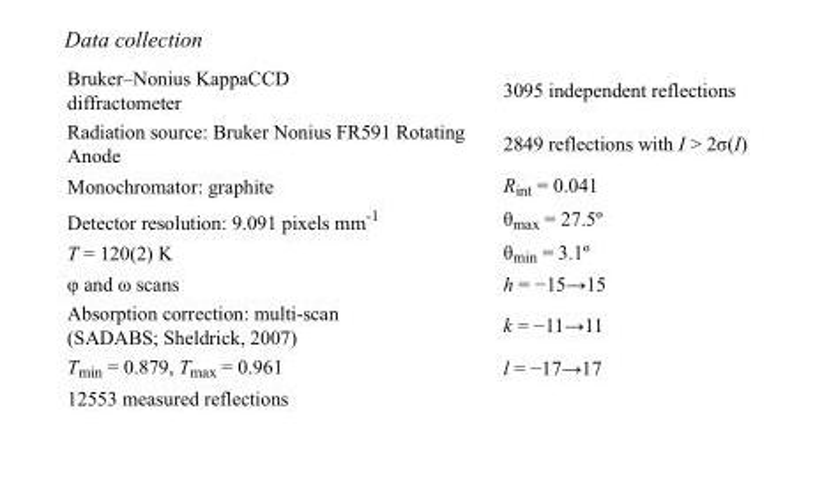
<table><tbody><tr><td>Bruker–Nonius KappaCCD diffractometer</td><td>3095 independent reflections</td></tr><tr><td>Radiation source: Bruker Nonius FR591 Rotating Anode</td><td>2849 reflections with I &gt; 2σ(I)</td></tr><tr><td>Monochromator: graphite</td><td>R<sub>int</sub> = 0.041</td></tr><tr><td>Detector resolution: 9.091 pixels mm<sup>-1</sup></td><td>θ<sub>max</sub> = 27.5º</td></tr><tr><td>T = 120(2) K</td><td>θ<sub>min</sub> = 3.1º</td></tr><tr><td>φ and ω scans</td><td>h = −15→15</td></tr><tr><td>Absorption correction: multi-scan (SADABS; Sheldrick, 2007)</td><td>k = −11→11</td></tr><tr><td>T<sub>min</sub> = 0.879, T<sub>max</sub> = 0.961</td><td>l = −17→17</td></tr><tr><td>12553 measured reflections</td><td></td></tr></tbody></table>